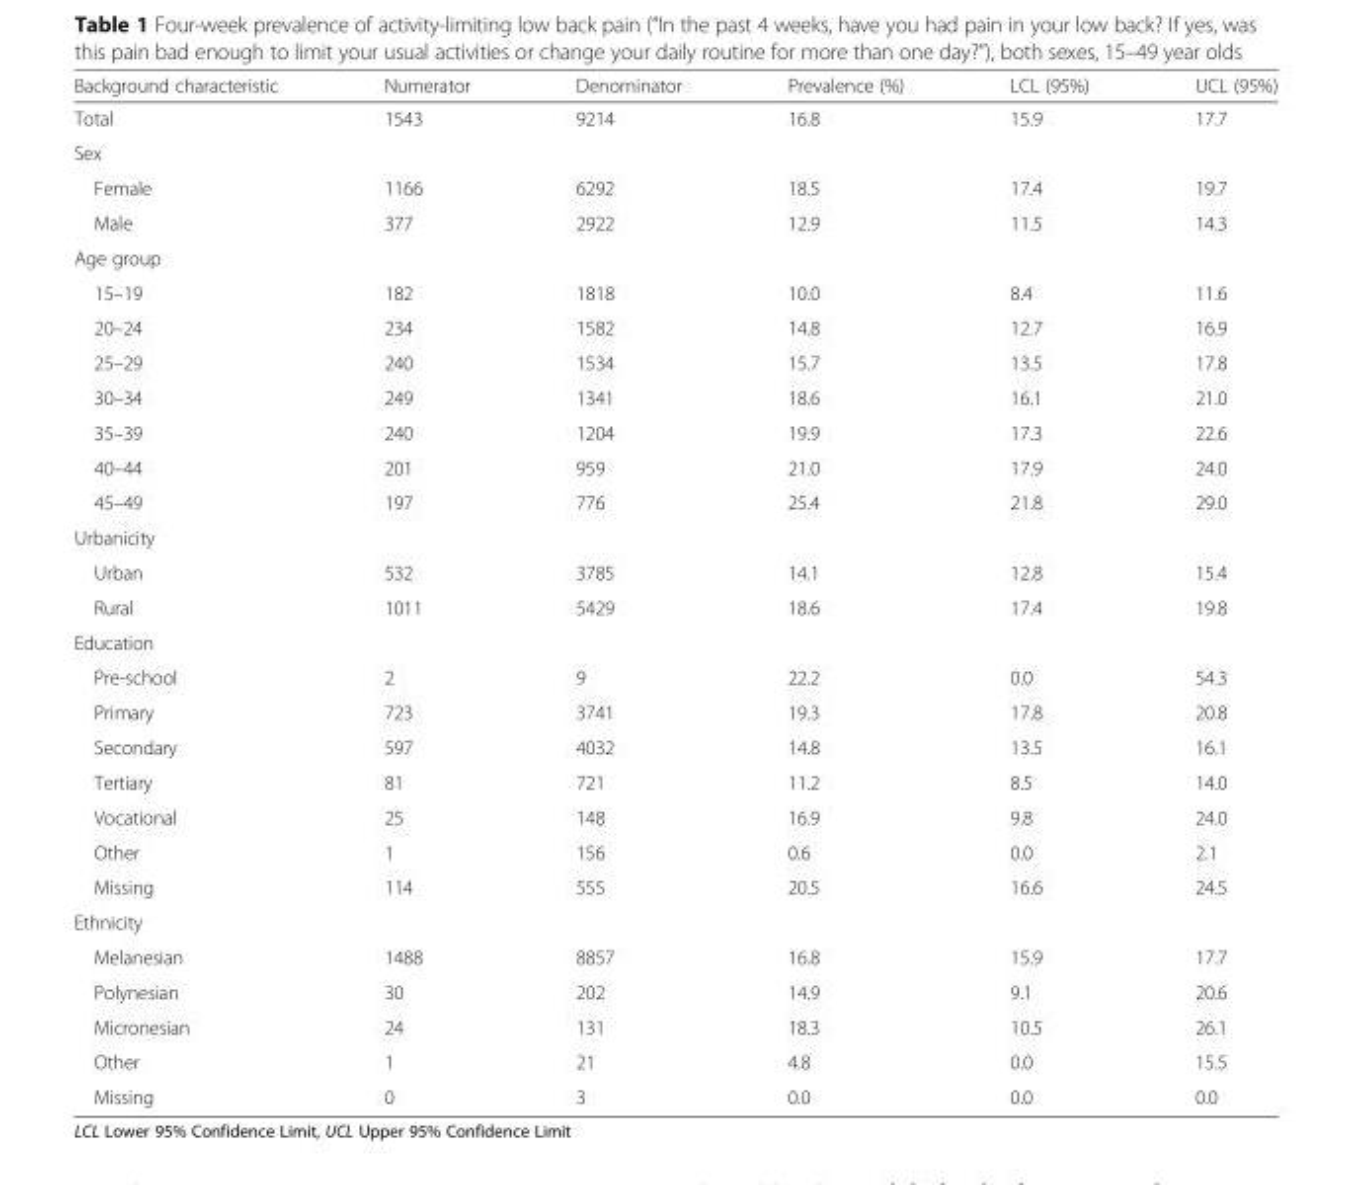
<table><thead><tr><td>Background characteristic</td><td>Numerator</td><td>Denominator</td><td>Prevalence (%)</td><td>LCL (95%)</td><td>UCL (95%)</td></tr></thead><tbody><tr><td>Total</td><td>1543</td><td>9214</td><td>16.8</td><td>15.9</td><td>17.7</td></tr><tr><td colspan="6">Sex</td></tr><tr><td>Female</td><td>1166</td><td>6292</td><td>18.5</td><td>17.4</td><td>19.7</td></tr><tr><td>Male</td><td>377</td><td>2922</td><td>12.9</td><td>11.5</td><td>14.3</td></tr><tr><td colspan="6">Age group</td></tr><tr><td>15–19</td><td>182</td><td>1818</td><td>10.0</td><td>8.4</td><td>11.6</td></tr><tr><td>20–24</td><td>234</td><td>1582</td><td>14.8</td><td>12.7</td><td>16.9</td></tr><tr><td>25–29</td><td>240</td><td>1534</td><td>15.7</td><td>13.5</td><td>17.8</td></tr><tr><td>30–34</td><td>249</td><td>1341</td><td>18.6</td><td>16.1</td><td>21.0</td></tr><tr><td>35–39</td><td>240</td><td>1204</td><td>19.9</td><td>17.3</td><td>22.6</td></tr><tr><td>40–44</td><td>201</td><td>959</td><td>21.0</td><td>17.9</td><td>24.0</td></tr><tr><td>45–49</td><td>197</td><td>776</td><td>25.4</td><td>21.8</td><td>29.0</td></tr><tr><td colspan="6">Urbanicity</td></tr><tr><td>Urban</td><td>532</td><td>3785</td><td>14.1</td><td>12.8</td><td>15.4</td></tr><tr><td>Rural</td><td>1011</td><td>5429</td><td>18.6</td><td>17.4</td><td>19.8</td></tr><tr><td colspan="6">Education</td></tr><tr><td>Pre-school</td><td>2</td><td>9</td><td>22.2</td><td>0.0</td><td>54.3</td></tr><tr><td>Primary</td><td>723</td><td>3741</td><td>19.3</td><td>17.8</td><td>20.8</td></tr><tr><td>Secondary</td><td>597</td><td>4032</td><td>14.8</td><td>13.5</td><td>16.1</td></tr><tr><td>Tertiary</td><td>81</td><td>721</td><td>11.2</td><td>8.5</td><td>14.0</td></tr><tr><td>Vocational</td><td>25</td><td>148</td><td>16.9</td><td>9.8</td><td>24.0</td></tr><tr><td>Other</td><td>1</td><td>156</td><td>0.6</td><td>0.0</td><td>2.1</td></tr><tr><td>Missing</td><td>114</td><td>555</td><td>20.5</td><td>16.6</td><td>24.5</td></tr><tr><td colspan="6">Ethnicity</td></tr><tr><td>Melanesian</td><td>1488</td><td>8857</td><td>16.8</td><td>15.9</td><td>17.7</td></tr><tr><td>Polynesian</td><td>30</td><td>202</td><td>14.9</td><td>9.1</td><td>20.6</td></tr><tr><td>Micronesian</td><td>24</td><td>131</td><td>18.3</td><td>10.5</td><td>26.1</td></tr><tr><td>Other</td><td>1</td><td>21</td><td>4.8</td><td>0.0</td><td>15.5</td></tr><tr><td>Missing</td><td>0</td><td>3</td><td>0.0</td><td>0.0</td><td>0.0</td></tr></tbody></table>